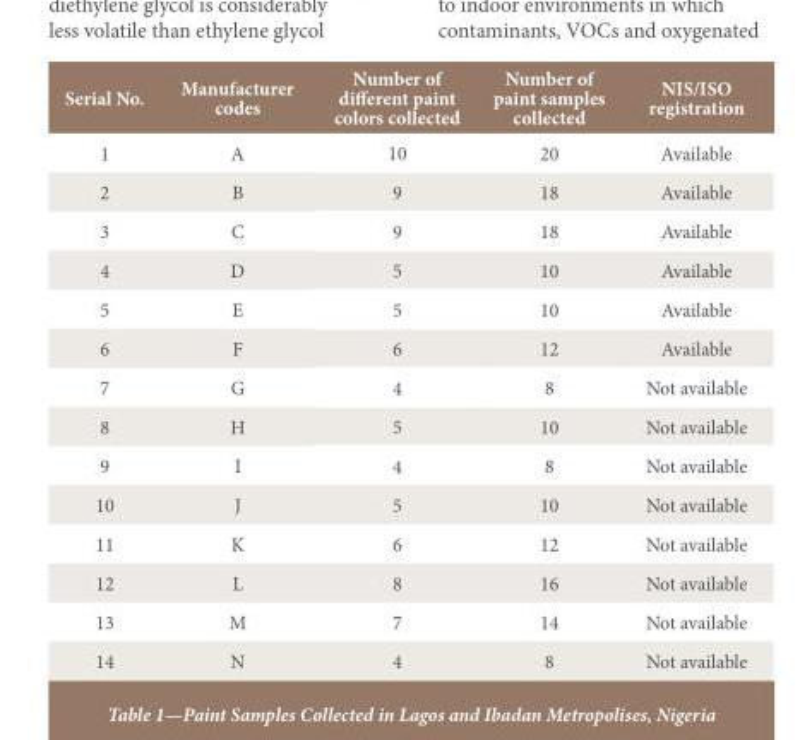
<table><thead><tr><td>Serial No.</td><td>Manufacturer codes</td><td>Number of different paint colors collected</td><td>Number of paint samples collected</td><td>NIS/ISO registration</td></tr></thead><tbody><tr><td>1</td><td>A</td><td>10</td><td>20</td><td>Available</td></tr><tr><td>2</td><td>B</td><td>9</td><td>18</td><td>Available</td></tr><tr><td>3</td><td>C</td><td>9</td><td>18</td><td>Available</td></tr><tr><td>4</td><td>D</td><td>5</td><td>10</td><td>Available</td></tr><tr><td>5</td><td>E</td><td>5</td><td>10</td><td>Available</td></tr><tr><td>6</td><td>F</td><td>6</td><td>12</td><td>Available</td></tr><tr><td>7</td><td>G</td><td>4</td><td>8</td><td>Not available</td></tr><tr><td>8</td><td>H</td><td>5</td><td>10</td><td>Not available</td></tr><tr><td>9</td><td>I</td><td>4</td><td>8</td><td>Not available</td></tr><tr><td>10</td><td>J</td><td>5</td><td>10</td><td>Not available</td></tr><tr><td>11</td><td>K</td><td>6</td><td>12</td><td>Not available</td></tr><tr><td>12</td><td>L</td><td>8</td><td>16</td><td>Not available</td></tr><tr><td>13</td><td>M</td><td>7</td><td>14</td><td>Not available</td></tr><tr><td>14</td><td>N</td><td>4</td><td>8</td><td>Not available</td></tr></tbody></table>